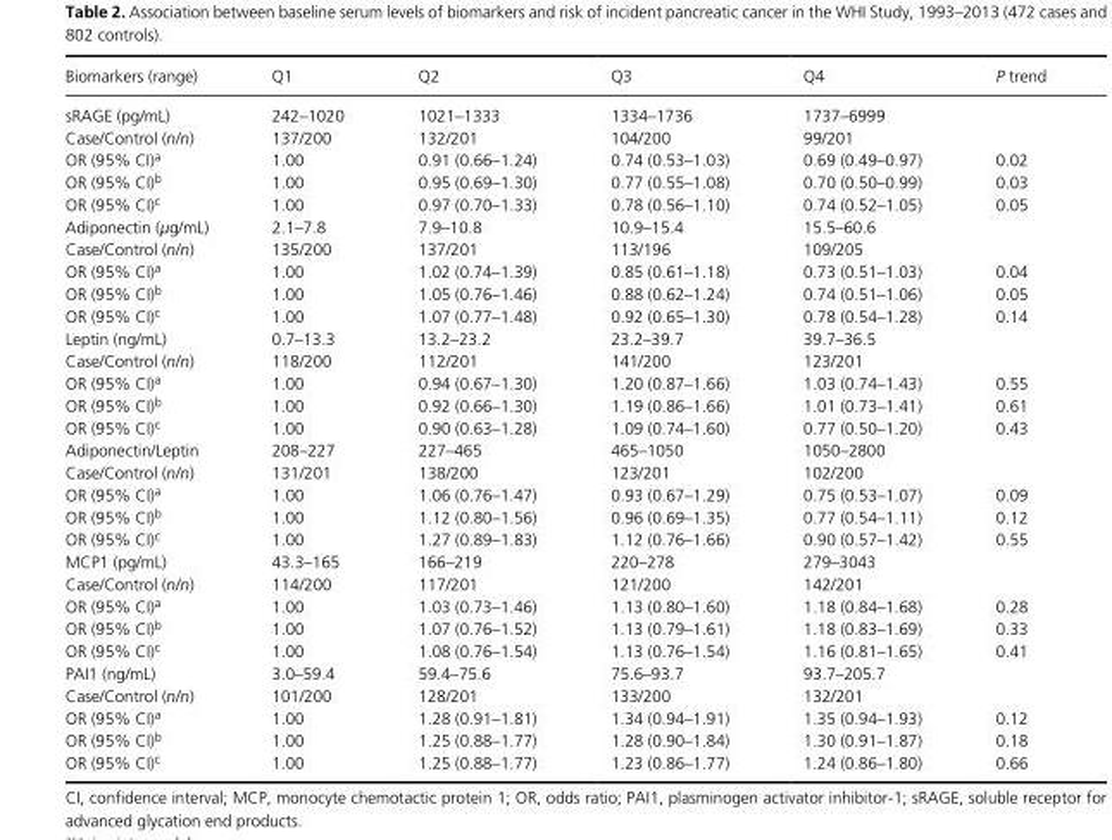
<table><thead><tr><td>Biomarkers (range)</td><td>Q1</td><td>Q2</td><td>Q3</td><td>Q4</td><td>P trend</td></tr></thead><tbody><tr><td>sRAGE (pg/mL)</td><td>242–1020</td><td>1021–1333</td><td>1334–1736</td><td>1737–6999</td><td></td></tr><tr><td>Case/Control (n/n)</td><td>137/200</td><td>132/201</td><td>104/200</td><td>99/201</td><td></td></tr><tr><td>OR (95% CI)<sup>a</sup></td><td>1.00</td><td>0.91 (0.66–1.24)</td><td>0.74 (0.53–1.03)</td><td>0.69 (0.49–0.97)</td><td>0.02</td></tr><tr><td>OR (95% CI)<sup>b</sup></td><td>1.00</td><td>0.95 (0.69–1.30)</td><td>0.77 (0.55–1.08)</td><td>0.70 (0.50–0.99)</td><td>0.03</td></tr><tr><td>OR (95% CI)<sup>c</sup></td><td>1.00</td><td>0.97 (0.70–1.33)</td><td>0.78 (0.56–1.10)</td><td>0.74 (0.52–1.05)</td><td>0.05</td></tr><tr><td>Adiponectin (μg/mL)</td><td>2.1–7.8</td><td>7.9–10.8</td><td>10.9–15.4</td><td>15.5–60.6</td><td></td></tr><tr><td>Case/Control (n/n)</td><td>135/200</td><td>137/201</td><td>113/196</td><td>109/205</td><td></td></tr><tr><td>OR (95% CI)<sup>a</sup></td><td>1.00</td><td>1.02 (0.74–1.39)</td><td>0.85 (0.61–1.18)</td><td>0.73 (0.51–1.03)</td><td>0.04</td></tr><tr><td>OR (95% CI)<sup>b</sup></td><td>1.00</td><td>1.05 (0.76–1.46)</td><td>0.88 (0.62–1.24)</td><td>0.74 (0.51–1.06)</td><td>0.05</td></tr><tr><td>OR (95% CI)<sup>c</sup></td><td>1.00</td><td>1.07 (0.77–1.48)</td><td>0.92 (0.65–1.30)</td><td>0.78 (0.54–1.28)</td><td>0.14</td></tr><tr><td>Leptin (ng/mL)</td><td>0.7–13.3</td><td>13.2–23.2</td><td>23.2–39.7</td><td>39.7–36.5</td><td></td></tr><tr><td>Case/Control (n/n)</td><td>118/200</td><td>112/201</td><td>141/200</td><td>123/201</td><td></td></tr><tr><td>OR (95% CI)<sup>a</sup></td><td>1.00</td><td>0.94 (0.67–1.30)</td><td>1.20 (0.87–1.66)</td><td>1.03 (0.74–1.43)</td><td>0.55</td></tr><tr><td>OR (95% CI)<sup>b</sup></td><td>1.00</td><td>0.92 (0.66–1.30)</td><td>1.19 (0.86–1.66)</td><td>1.01 (0.73–1.41)</td><td>0.61</td></tr><tr><td>OR (95% CI)<sup>c</sup></td><td>1.00</td><td>0.90 (0.63–1.28)</td><td>1.09 (0.74–1.60)</td><td>0.77 (0.50–1.20)</td><td>0.43</td></tr><tr><td>Adiponectin/Leptin</td><td>208–227</td><td>227–465</td><td>465–1050</td><td>1050–2800</td><td></td></tr><tr><td>Case/Control (n/n)</td><td>131/201</td><td>138/200</td><td>123/201</td><td>102/200</td><td></td></tr><tr><td>OR (95% CI)<sup>a</sup></td><td>1.00</td><td>1.06 (0.76–1.47)</td><td>0.93 (0.67–1.29)</td><td>0.75 (0.53–1.07)</td><td>0.09</td></tr><tr><td>OR (95% CI)<sup>b</sup></td><td>1.00</td><td>1.12 (0.80–1.56)</td><td>0.96 (0.69–1.35)</td><td>0.77 (0.54–1.11)</td><td>0.12</td></tr><tr><td>OR (95% CI)<sup>c</sup></td><td>1.00</td><td>1.27 (0.89–1.83)</td><td>1.12 (0.76–1.66)</td><td>0.90 (0.57–1.42)</td><td>0.55</td></tr><tr><td>MCP1 (pg/mL)</td><td>43.3–165</td><td>166–219</td><td>220–278</td><td>279–3043</td><td></td></tr><tr><td>Case/Control (n/n)</td><td>114/200</td><td>117/201</td><td>121/200</td><td>142/201</td><td></td></tr><tr><td>OR (95% CI)<sup>a</sup></td><td>1.00</td><td>1.03 (0.73–1.46)</td><td>1.13 (0.80–1.60)</td><td>1.18 (0.84–1.68)</td><td>0.28</td></tr><tr><td>OR (95% CI)<sup>b</sup></td><td>1.00</td><td>1.07 (0.76–1.52)</td><td>1.13 (0.79–1.61)</td><td>1.18 (0.83–1.69)</td><td>0.33</td></tr><tr><td>OR (95% CI)<sup>c</sup></td><td>1.00</td><td>1.08 (0.76–1.54)</td><td>1.13 (0.76–1.54)</td><td>1.16 (0.81–1.65)</td><td>0.41</td></tr><tr><td>PAI1 (ng/mL)</td><td>3.0–59.4</td><td>59.4–75.6</td><td>75.6–93.7</td><td>93.7–205.7</td><td></td></tr><tr><td>Case/Control (n/n)</td><td>101/200</td><td>128/201</td><td>133/200</td><td>132/201</td><td></td></tr><tr><td>OR (95% CI)<sup>a</sup></td><td>1.00</td><td>1.28 (0.91–1.81)</td><td>1.34 (0.94–1.91)</td><td>1.35 (0.94–1.93)</td><td>0.12</td></tr><tr><td>OR (95% CI)<sup>b</sup></td><td>1.00</td><td>1.25 (0.88–1.77)</td><td>1.28 (0.90–1.84)</td><td>1.30 (0.91–1.87)</td><td>0.18</td></tr><tr><td>OR (95% CI)<sup>c</sup></td><td>1.00</td><td>1.25 (0.88–1.77)</td><td>1.23 (0.86–1.77)</td><td>1.24 (0.86–1.80)</td><td>0.66</td></tr></tbody></table>